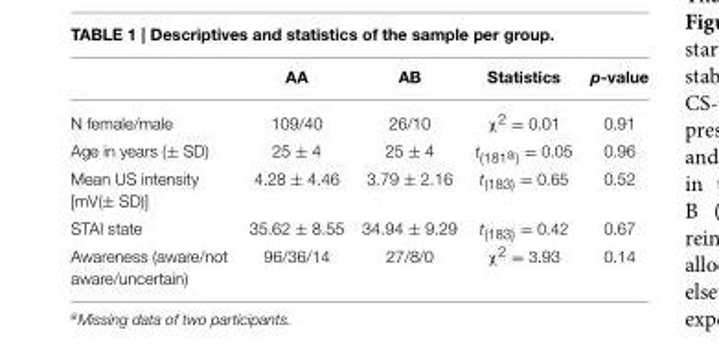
<table><thead><tr><td></td><td>AA</td><td>AB</td><td>Statistics</td><td>p-value</td></tr></thead><tbody><tr><td>N female/male</td><td>109/40</td><td>26/10</td><td>χ<sup>2</sup> = 0.01</td><td>0.91</td></tr><tr><td>Age in years (± SD)</td><td>25 ± 4</td><td>25 ± 4</td><td><sup>t</sup>(181<sup>a</sup>) = 0.05</td><td>0.96</td></tr><tr><td>Mean US intensity [mV(± SD)]</td><td>4.28 ± 4.46</td><td>3.79 ± 2.16</td><td><sup>t</sup><sub>(183)</sub> = 0.65</td><td>0.52</td></tr><tr><td>STAI state</td><td>35.62 ± 8.55</td><td>34.94 ± 9.29</td><td><sup>t</sup><sub>(183)</sub> = 0.42</td><td>0.67</td></tr><tr><td>Awareness (aware/not aware/uncertain)</td><td>96/36/14</td><td>27/8/0</td><td>χ<sup>2</sup> = 3.93</td><td>0.14</td></tr></tbody></table>